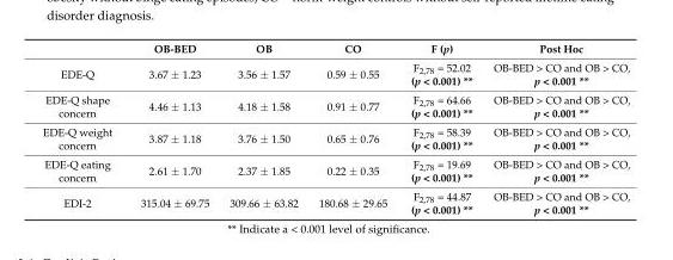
<table><thead><tr><td></td><td>OB-BED</td><td>OB</td><td>CO</td><td>F (p)</td><td>Post Hoc</td></tr></thead><tbody><tr><td>EDE-Q</td><td>3.67 ± 1.23</td><td>3.56 ± 1.57</td><td>0.59 ± 0.55</td><td>F<sub>2,78</sub> = 52.02 (p &lt; 0.001) **</td><td>OB-BED &gt; CO and OB &gt; CO, p &lt; 0.001 **</td></tr><tr><td>EDE-Q shape concern</td><td>4.46 ± 1.13</td><td>4.18 ± 1.58</td><td>0.91 ± 0.77</td><td>F<sub>2,78</sub> = 64.66 (p &lt; 0.001) **</td><td>OB-BED &gt; CO and OB &gt; CO, p &lt; 0.001 **</td></tr><tr><td>EDE-Q weight concern</td><td>3.87 ± 1.18</td><td>3.76 ± 1.50</td><td>0.65 ± 0.76</td><td>F<sub>2,78</sub> = 58.39 (p &lt; 0.001) **</td><td>OB-BED &gt; CO and OB &gt; CO, p &lt; 0.001 **</td></tr><tr><td>EDE-Q eating concern</td><td>2.61 ± 1.70</td><td>2.37 ± 1.85</td><td>0.22 ± 0.35</td><td>F<sub>2,78</sub> = 19.69 (p &lt; 0.001) **</td><td>OB-BED &gt; CO and OB &gt; CO, p &lt; 0.001 **</td></tr><tr><td>EDI-2</td><td>315.04 ± 69.75</td><td>309.66 ± 63.82</td><td>180.68 ± 29.65</td><td>F<sub>2,78</sub> = 44.87 (p &lt; 0.001) **</td><td>OB-BED &gt; CO and OB &gt; CO, p &lt; 0.001 **</td></tr></tbody></table>